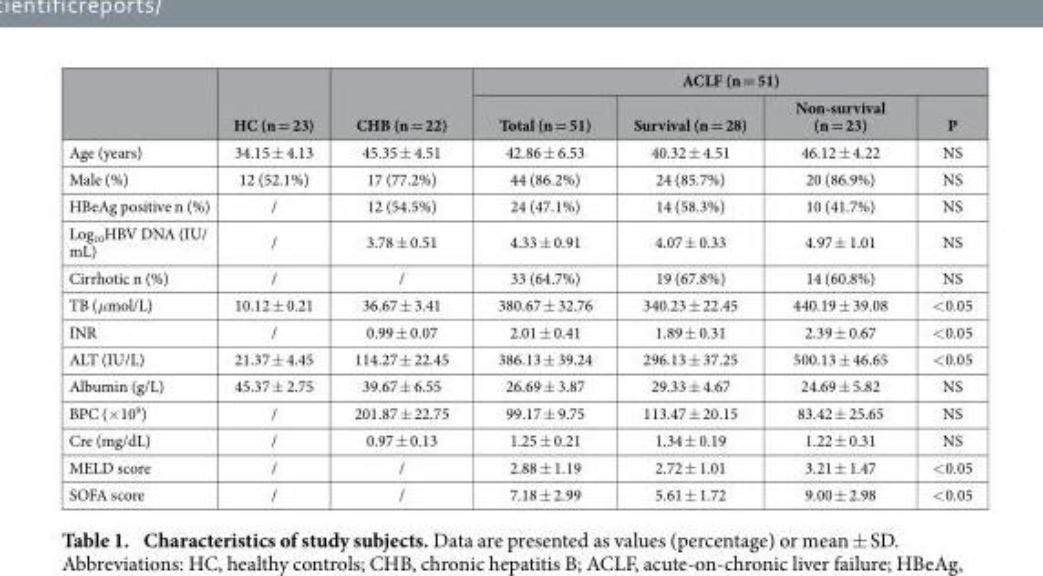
<table><thead><tr><td rowspan="2"></td><td rowspan="2">HC (n = 23)</td><td rowspan="2">CHB (n = 22)</td><td colspan="4">ACLF (n = 51)</td></tr><tr><td>Total (n = 51)</td><td>Survival (n = 28)</td><td>Non-survival (n = 23)</td><td>P</td></tr></thead><tbody><tr><td>Age (years)</td><td>34.15 ± 4.13</td><td>45.35 ± 4.51</td><td>42.86 ± 6.53</td><td>40.32 ± 4.51</td><td>46.12 ± 4.22</td><td>NS</td></tr><tr><td>Male (%)</td><td>12 (52.1%)</td><td>17 (77.2%)</td><td>44 (86.2%)</td><td>24 (85.7%)</td><td>20 (86.9%)</td><td>NS</td></tr><tr><td>HBeAg positive n (%)</td><td>/</td><td>12 (54.5%)</td><td>24 (47.1%)</td><td>14 (58.3%)</td><td>10 (41.7%)</td><td>NS</td></tr><tr><td>Log<sub>10</sub>HBV DNA (IU/ mL)</td><td>/</td><td>3.78 ± 0.51</td><td>4.33 ± 0.91</td><td>4.07 ± 0.33</td><td>4.97 ± 1.01</td><td>NS</td></tr><tr><td>Cirrhotic n (%)</td><td>/</td><td>/</td><td>33 (64.7%)</td><td>19 (67.8%)</td><td>14 (60.8%)</td><td>NS</td></tr><tr><td>TB (μmol/L)</td><td>10.12 ± 0.21</td><td>36.67 ± 3.41</td><td>380.67 ± 32.76</td><td>340.23 ± 22.45</td><td>440.19 ± 39.08</td><td>&lt; 0.05</td></tr><tr><td>INR</td><td>/</td><td>0.99 ± 0.07</td><td>2.01 ± 0.41</td><td>1.89 ± 0.31</td><td>2.39 ± 0.67</td><td>&lt; 0.05</td></tr><tr><td>ALT (IU/L)</td><td>21.37 ± 4.45</td><td>114.27 ± 22.45</td><td>386.13 ± 39.24</td><td>296.13 ± 37.25</td><td>500.13 ± 46.65</td><td>&lt; 0.05</td></tr><tr><td>Albumin (g/L)</td><td>45.37 ± 2.75</td><td>39.67 ± 6.55</td><td>26.69 ± 3.87</td><td>29.33 ± 4.67</td><td>24.69 ± 5.82</td><td>NS</td></tr><tr><td>BPC (× 10<sup>9</sup>)</td><td>/</td><td>201.87 ± 22.75</td><td>99.17 ± 9.75</td><td>113.47 ± 20.15</td><td>83.42 ± 25.65</td><td>NS</td></tr><tr><td>Cre (mg/dL)</td><td>/</td><td>0.97 ± 0.13</td><td>1.25 ± 0.21</td><td>1.34 ± 0.19</td><td>1.22 ± 0.31</td><td>NS</td></tr><tr><td>MELD score</td><td>/</td><td>/</td><td>2.88 ± 1.19</td><td>2.72 ± 1.01</td><td>3.21 ± 1.47</td><td>&lt; 0.05</td></tr><tr><td>SOFA score</td><td>/</td><td>/</td><td>7.18 ± 2.99</td><td>5.61 ± 1.72</td><td>9.00 ± 2.98</td><td>&lt; 0.05</td></tr></tbody></table>